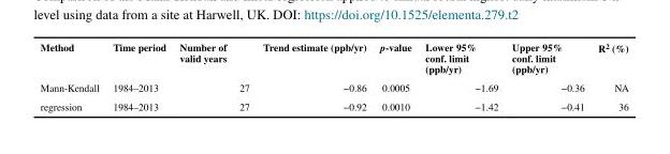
<table><thead><tr><td>Method</td><td>Time period</td><td>Number of valid years</td><td>Trend estimate (ppb/yr)</td><td>p-value</td><td>Lower 95% conf. limit (ppb/yr)</td><td>Upper 95% conf. limit (ppb/yr)</td><td>R<sup>2</sup> (%)</td></tr></thead><tbody><tr><td>Mann-Kendall</td><td>1984–2013</td><td>27</td><td>−0.86</td><td>0.0005</td><td>−1.69</td><td>−0.36</td><td>NA</td></tr><tr><td>regression</td><td>1984–2013</td><td>27</td><td>−0.92</td><td>0.0010</td><td>−1.42</td><td>−0.41</td><td>36</td></tr></tbody></table>